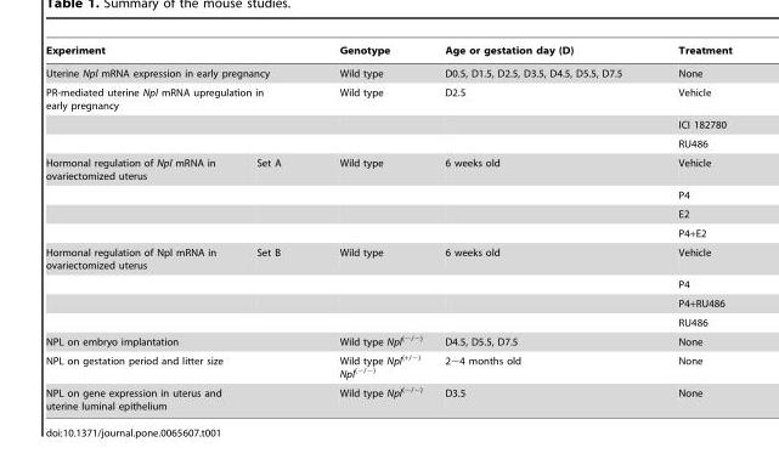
<table><thead><tr><td colspan="2">Experiment</td><td>Genotype</td><td>Age or gestation day (D)</td><td>Treatment</td></tr></thead><tbody><tr><td colspan="2">Uterine Npl mRNA expression in early pregnancy</td><td>Wild type</td><td>D0.5, D1.5, D2.5, D3.5, D4.5, D5.5, D7.5</td><td>None</td></tr><tr><td rowspan="3" colspan="2">PR-mediated uterine Npl mRNA upregulation in early pregnancy</td><td>Wild type</td><td>D2.5</td><td>Vehicle</td></tr><tr><td></td><td></td><td>ICI 182780</td></tr><tr><td></td><td></td><td>RU486</td></tr><tr><td rowspan="4">Hormonal regulation of Npl mRNA in ovariectomized uterus</td><td>Set A</td><td>Wild type</td><td>6 weeks old</td><td>Vehicle</td></tr><tr><td></td><td></td><td></td><td>P4</td></tr><tr><td></td><td></td><td></td><td>E2</td></tr><tr><td></td><td></td><td></td><td>P4+E2</td></tr><tr><td rowspan="4">Hormonal regulation of Npl mRNA in ovariectomized uterus</td><td>Set B</td><td>Wild type</td><td>6 weeks old</td><td>Vehicle</td></tr><tr><td></td><td></td><td></td><td>P4</td></tr><tr><td></td><td></td><td></td><td>P4+RU486</td></tr><tr><td></td><td></td><td></td><td>RU486</td></tr><tr><td colspan="2">NPL on embryo implantation</td><td>Wild type Npl<sup>(−/−)</sup></td><td>D4.5, D5.5, D7.5</td><td>None</td></tr><tr><td colspan="2">NPL on gestation period and litter size</td><td>Wild type Npl<sup>(+/−)</sup> Npl<sup>(−/−)</sup></td><td>2∼4 months old</td><td>None</td></tr><tr><td colspan="2">NPL on gene expression in uterus and uterine luminal epithelium</td><td>Wild type Npl<sup>(−/−)</sup></td><td>D3.5</td><td>None</td></tr></tbody></table>